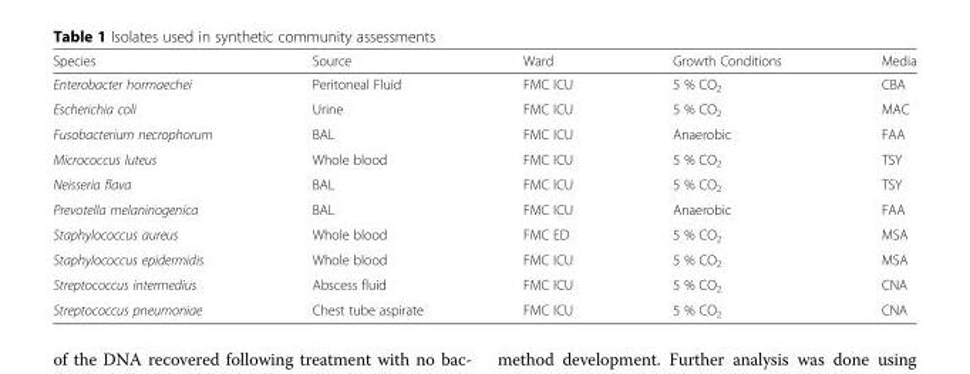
<table><thead><tr><td>Species</td><td>Source</td><td>Ward</td><td>Growth Conditions</td><td>Media</td></tr></thead><tbody><tr><td>Enterobacter hormaechei</td><td>Peritoneal Fluid</td><td>FMC ICU</td><td>5 % CO<sub>2</sub></td><td>CBA</td></tr><tr><td>Escherichia coli</td><td>Urine</td><td>FMC ICU</td><td>5 % CO<sub>2</sub></td><td>MAC</td></tr><tr><td>Fusobacterium necrophorum</td><td>BAL</td><td>FMC ICU</td><td>Anaerobic</td><td>FAA</td></tr><tr><td>Micrococcus luteus</td><td>Whole blood</td><td>FMC ICU</td><td>5 % CO<sub>2</sub></td><td>TSY</td></tr><tr><td>Neisseria flava</td><td>BAL</td><td>FMC ICU</td><td>5 % CO<sub>2</sub></td><td>TSY</td></tr><tr><td>Prevotella melaninogenica</td><td>BAL</td><td>FMC ICU</td><td>Anaerobic</td><td>FAA</td></tr><tr><td>Staphylococcus aureus</td><td>Whole blood</td><td>FMC ED</td><td>5 % CO<sub>2</sub></td><td>MSA</td></tr><tr><td>Staphylococcus epidermidis</td><td>Whole blood</td><td>FMC ICU</td><td>5 % CO<sub>2</sub></td><td>MSA</td></tr><tr><td>Streptococcus intermedius</td><td>Abscess fluid</td><td>FMC ICU</td><td>5 % CO<sub>2</sub></td><td>CNA</td></tr><tr><td>Streptococcus pneumoniae</td><td>Chest tube aspirate</td><td>FMC ICU</td><td>5 % CO<sub>2</sub></td><td>CNA</td></tr></tbody></table>